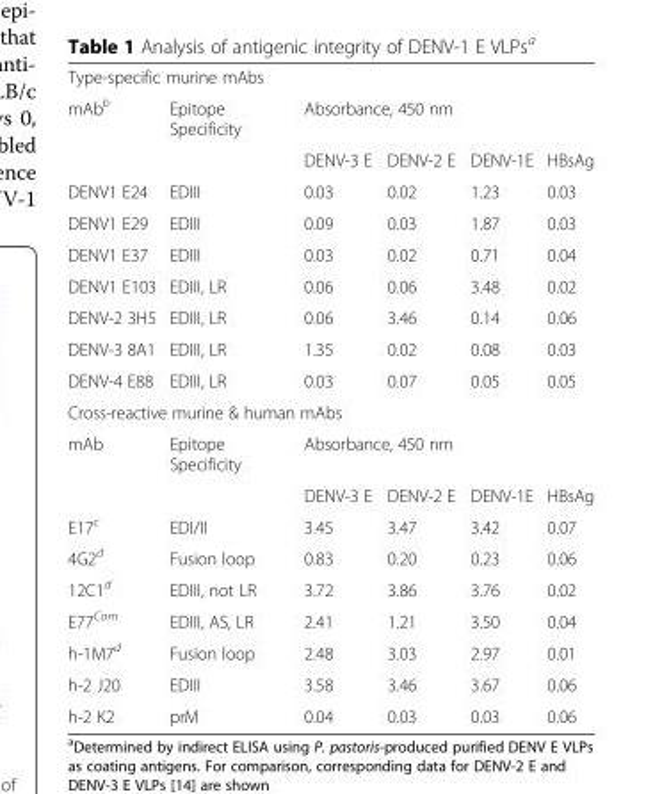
<table><tbody><tr><td colspan="6">Type-specific murine mAbs</td></tr><tr><td rowspan="2">mAb<sup>b</sup></td><td>Epitope Specificity</td><td colspan="4">Absorbance, 450 nm</td></tr><tr><td></td><td>DENV-3 E</td><td>DENV-2 E</td><td>DENV-1E</td><td>HBsAg</td></tr><tr><td>DENV1 E24</td><td>EDIII</td><td>0.03</td><td>0.02</td><td>1.23</td><td>0.03</td></tr><tr><td>DENV1 E29</td><td>EDIII</td><td>0.09</td><td>0.03</td><td>1.87</td><td>0.03</td></tr><tr><td>DENV1 E37</td><td>EDIII</td><td>0.03</td><td>0.02</td><td>0.71</td><td>0.04</td></tr><tr><td>DENV1 E103</td><td>EDIII, LR</td><td>0.06</td><td>0.06</td><td>3.48</td><td>0.02</td></tr><tr><td>DENV-2 3H5</td><td>EDIII, LR</td><td>0.06</td><td>3.46</td><td>0.14</td><td>0.06</td></tr><tr><td>DENV-3 8A1</td><td>EDIII, LR</td><td>1.35</td><td>0.02</td><td>0.08</td><td>0.03</td></tr><tr><td>DENV-4 E88</td><td>EDIII, LR</td><td>0.03</td><td>0.07</td><td>0.05</td><td>0.05</td></tr><tr><td colspan="6">Cross-reactive murine &amp; human mAbs</td></tr><tr><td rowspan="2">mAb</td><td>Epitope Specificity</td><td colspan="4">Absorbance, 450 nm</td></tr><tr><td></td><td>DENV-3 E</td><td>DENV-2 E</td><td>DENV-1E</td><td>HBsAg</td></tr><tr><td>E17<sup>c</sup></td><td>EDI/II</td><td>3.45</td><td>3.47</td><td>3.42</td><td>0.07</td></tr><tr><td>4G2<sup>d</sup></td><td>Fusion loop</td><td>0.83</td><td>0.20</td><td>0.23</td><td>0.06</td></tr><tr><td>12C1<sup>d</sup></td><td>EDIII, not LR</td><td>3.72</td><td>3.86</td><td>3.76</td><td>0.02</td></tr><tr><td>E77<sup>Com</sup></td><td>EDIII, AS, LR</td><td>2.41</td><td>1.21</td><td>3.50</td><td>0.04</td></tr><tr><td>h-1M7<sup>d</sup></td><td>Fusion loop</td><td>2.48</td><td>3.03</td><td>2.97</td><td>0.01</td></tr><tr><td>h-2 J20</td><td>EDIII</td><td>3.58</td><td>3.46</td><td>3.67</td><td>0.06</td></tr><tr><td>h-2 K2</td><td>prM</td><td>0.04</td><td>0.03</td><td>0.03</td><td>0.06</td></tr></tbody></table>